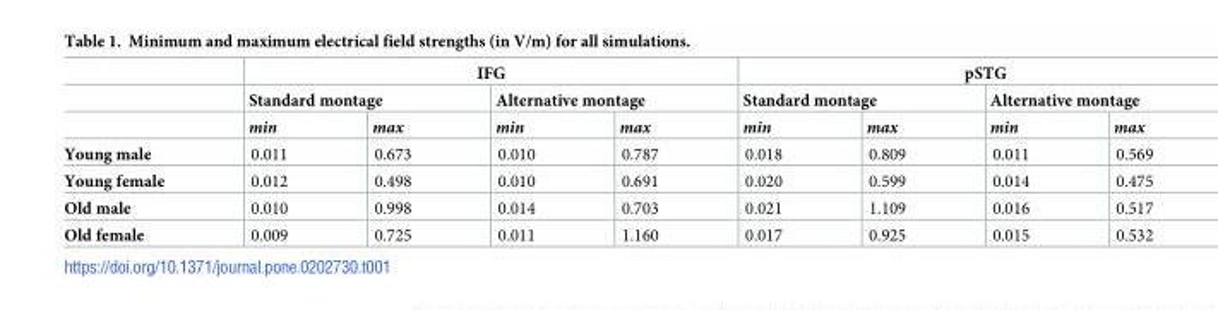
<table><thead><tr><td rowspan="3"></td><td colspan="4">IFG</td><td colspan="4">pSTG</td></tr><tr><td colspan="2">Standard montage</td><td colspan="2">Alternative montage</td><td colspan="2">Standard montage</td><td colspan="2">Alternative montage</td></tr><tr><td>min</td><td>max</td><td>min</td><td>max</td><td>min</td><td>max</td><td>min</td><td>max</td></tr></thead><tbody><tr><td>Young male</td><td>0.011</td><td>0.673</td><td>0.010</td><td>0.787</td><td>0.018</td><td>0.809</td><td>0.011</td><td>0.569</td></tr><tr><td>Young female</td><td>0.012</td><td>0.498</td><td>0.010</td><td>0.691</td><td>0.020</td><td>0.599</td><td>0.014</td><td>0.475</td></tr><tr><td>Old male</td><td>0.010</td><td>0.998</td><td>0.014</td><td>0.703</td><td>0.021</td><td>1.109</td><td>0.016</td><td>0.517</td></tr><tr><td>Old female</td><td>0.009</td><td>0.725</td><td>0.011</td><td>1.160</td><td>0.017</td><td>0.925</td><td>0.015</td><td>0.532</td></tr></tbody></table>